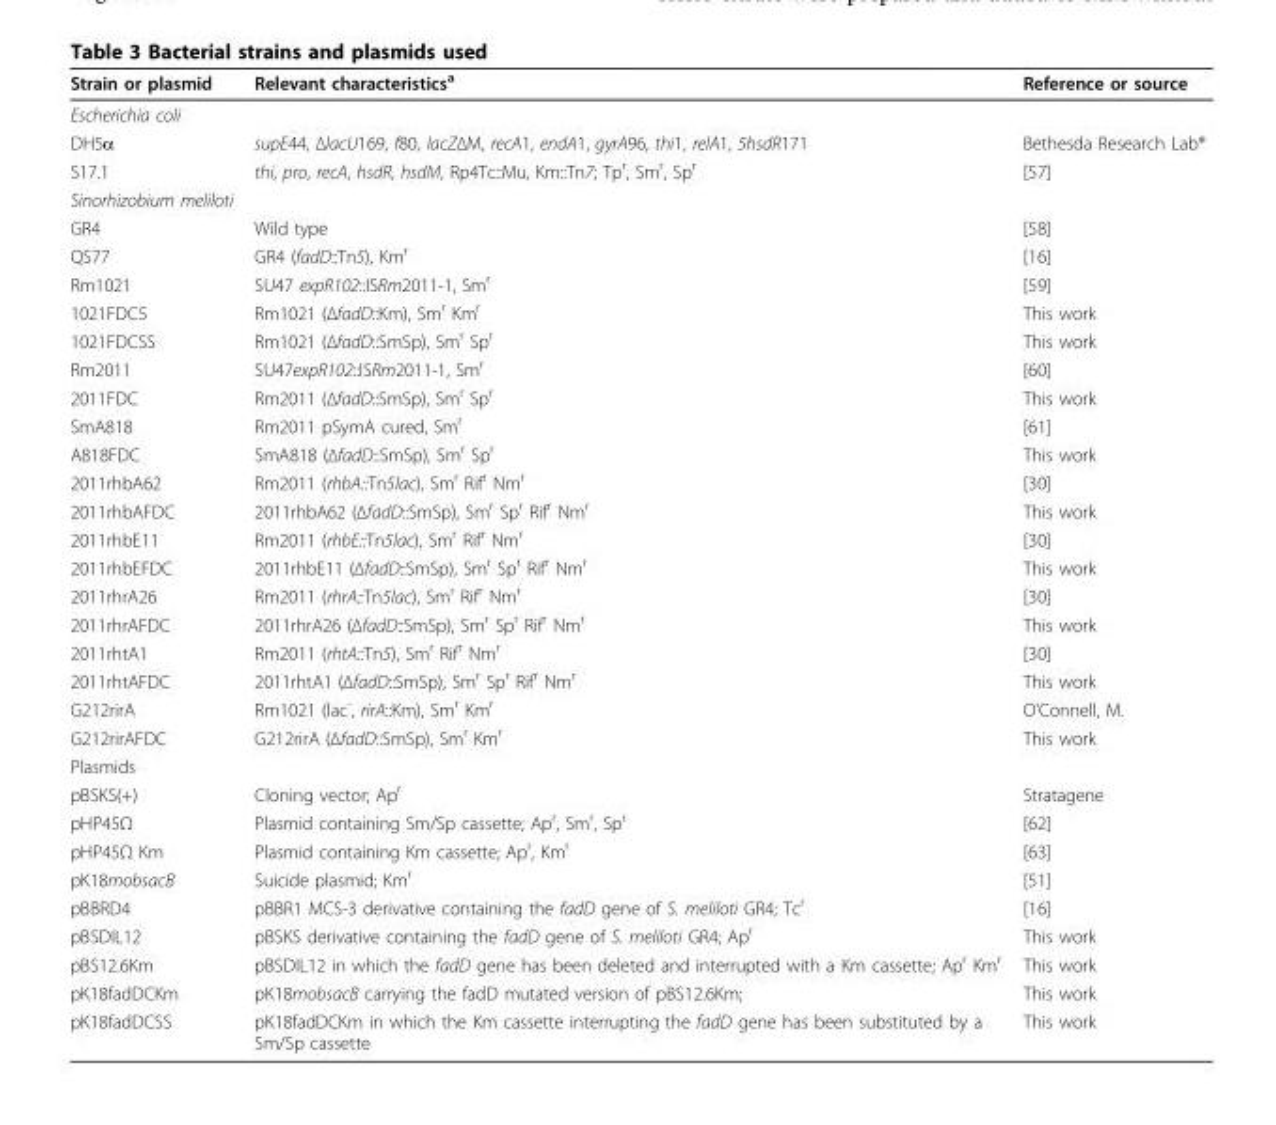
<table><thead><tr><td>Strain or plasmid</td><td>Relevant characteristics<sup>a</sup></td><td>Reference or source</td></tr></thead><tbody><tr><td colspan="3">Escherichia coli</td></tr><tr><td>DH5α</td><td>supE44, ΔlacU169, f80, lacZΔM, recA1, endA1, gyrA96, thi1, relA1, 5hsdR171</td><td>Bethesda Research Lab<sup>®</sup></td></tr><tr><td>S17.1</td><td>thi, pro, recA, hsdR, hsdM, Rp4Tc::Mu, Km::Tn7; Tp<sup>r</sup>, Sm<sup>r</sup>, Sp<sup>r</sup></td><td>[57]</td></tr><tr><td colspan="3">Sinorhizobium meliloti</td></tr><tr><td>GR4</td><td>Wild type</td><td>[58]</td></tr><tr><td>QS77</td><td>GR4 (fadD::Tn5), Km<sup>r</sup></td><td>[16]</td></tr><tr><td>Rm1021</td><td>SU47 expR102::ISRm2011-1, Sm<sup>r</sup></td><td>[59]</td></tr><tr><td>1021FDC5</td><td>Rm1021 (ΔfadD::Km), Sm<sup>r</sup> Km<sup>r</sup></td><td>This work</td></tr><tr><td>1021FDCSS</td><td>Rm1021 (ΔfadD::SmSp), Sm<sup>r</sup> Sp<sup>r</sup></td><td>This work</td></tr><tr><td>Rm2011</td><td>SU47expR102::ISRm2011-1, Sm<sup>r</sup></td><td>[60]</td></tr><tr><td>2011FDC</td><td>Rm2011 (ΔfadD::SmSp), Sm<sup>r</sup> Sp<sup>r</sup></td><td>This work</td></tr><tr><td>SmA818</td><td>Rm2011 pSymA cured, Sm<sup>r</sup></td><td>[61]</td></tr><tr><td>A818FDC</td><td>SmA818 (ΔfadD::SmSp), Sm<sup>r</sup> Sp<sup>r</sup></td><td>This work</td></tr><tr><td>2011rhbA62</td><td>Rm2011 (rhbA::Tn5lac), Sm<sup>r</sup> Rif<sup>r</sup> Nm<sup>r</sup></td><td>[30]</td></tr><tr><td>2011rhbAFDC</td><td>2011rhbA62 (ΔfadD::SmSp), Sm<sup>r</sup> Sp<sup>r</sup> Rif<sup>r</sup> Nm<sup>r</sup></td><td>This work</td></tr><tr><td>2011rhbE11</td><td>Rm2011 (rhbE::Tn5lac), Sm<sup>r</sup> Rif<sup>r</sup> Nm<sup>r</sup></td><td>[30]</td></tr><tr><td>2011rhbEFDC</td><td>2011rhbE11 (ΔfadD::SmSp), Sm<sup>r</sup> Sp<sup>r</sup> Rif<sup>r</sup> Nm<sup>r</sup></td><td>This work</td></tr><tr><td>2011rhrA26</td><td>Rm2011 (rhrA::Tn5lac), Sm<sup>r</sup> Rif<sup>r</sup> Nm<sup>r</sup></td><td>[30]</td></tr><tr><td>2011rhrAFDC</td><td>2011rhrA26 (ΔfadD::SmSp), Sm<sup>r</sup> Sp<sup>r</sup> Rif<sup>r</sup> Nm<sup>r</sup></td><td>This work</td></tr><tr><td>2011rhtA1</td><td>Rm2011 (rhtA::Tn5), Sm<sup>r</sup> Rif<sup>r</sup> Nm<sup>r</sup></td><td>[30]</td></tr><tr><td>2011rhtAFDC</td><td>2011rhtA1 (ΔfadD::SmSp), Sm<sup>r</sup> Sp<sup>r</sup> Rif<sup>r</sup> Nm<sup>r</sup></td><td>This work</td></tr><tr><td>G212rirA</td><td>Rm1021 (lac<sup>-</sup>, rirA::Km), Sm<sup>r</sup> Km<sup>r</sup></td><td>O’Connell, M.</td></tr><tr><td>G212rirAFDC</td><td>G212rirA (ΔfadD::SmSp), Sm<sup>r</sup> Km<sup>r</sup></td><td>This work</td></tr><tr><td colspan="3">Plasmids</td></tr><tr><td>pBSKS(+)</td><td>Cloning vector; Ap<sup>r</sup></td><td>Stratagene</td></tr><tr><td>pHP45Ω</td><td>Plasmid containing Sm/Sp cassette; Ap<sup>r</sup>, Sm<sup>r</sup>, Sp<sup>r</sup></td><td>[62]</td></tr><tr><td>pHP45Ω Km</td><td>Plasmid containing Km cassette; Ap<sup>r</sup>, Km<sup>r</sup></td><td>[63]</td></tr><tr><td>pK18mobsacB</td><td>Suicide plasmid; Km<sup>r</sup></td><td>[51]</td></tr><tr><td>pBBRD4</td><td>pBBR1 MCS-3 derivative containing the fadD gene of S. meliloti GR4; Tc<sup>r</sup></td><td>[16]</td></tr><tr><td>pBSDIL12</td><td>pBSKS derivative containing the fadD gene of S. meliloti GR4; Ap<sup>r</sup></td><td>This work</td></tr><tr><td>pBS12.6Km</td><td>pBSDIL12 in which the fadD gene has been deleted and interrupted with a Km cassette; Ap<sup>r</sup> Km<sup>r</sup></td><td>This work</td></tr><tr><td>pK18fadDCKm</td><td>pK18mobsacB carrying the fadD mutated version of pBS12.6Km;</td><td>This work</td></tr><tr><td>pK18fadDCSS</td><td>pK18fadDCKm in which the Km cassette interrupting the fadD gene has been substituted by a Sm/Sp cassette</td><td>This work</td></tr></tbody></table>